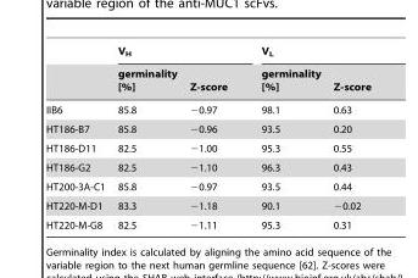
<table><thead><tr><td rowspan="2"></td><td colspan="2">V<sub>H</sub></td><td colspan="2">V<sub>L</sub></td></tr><tr><td>germinality [%]</td><td>Z-score</td><td>germinality [%]</td><td>Z-score</td></tr></thead><tbody><tr><td>IIB6</td><td>85.8</td><td>−0.97</td><td>98.1</td><td>0.63</td></tr><tr><td>HT186-B7</td><td>85.8</td><td>−0.96</td><td>93.5</td><td>0.20</td></tr><tr><td>HT186-D11</td><td>82.5</td><td>−1.00</td><td>95.3</td><td>0.55</td></tr><tr><td>HT186-G2</td><td>82.5</td><td>−1.10</td><td>96.3</td><td>0.43</td></tr><tr><td>HT200-3A-C1</td><td>85.8</td><td>−0.97</td><td>93.5</td><td>0.44</td></tr><tr><td>HT220-M-D1</td><td>83.3</td><td>−1.18</td><td>90.1</td><td>−0.02</td></tr><tr><td>HT220-M-G8</td><td>82.5</td><td>−1.11</td><td>95.3</td><td>0.31</td></tr></tbody></table>